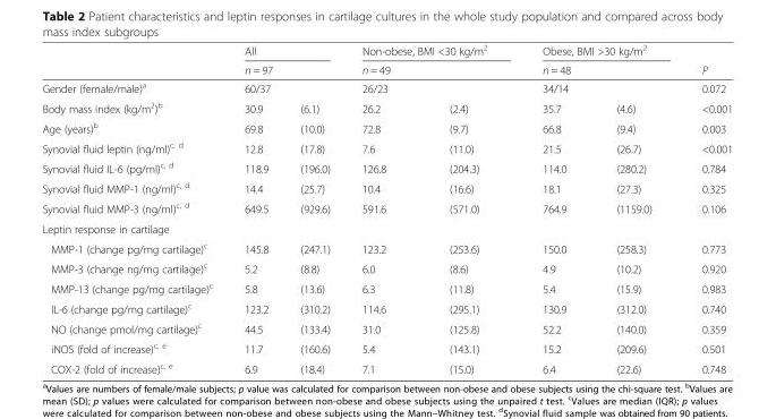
<table><thead><tr><td rowspan="4">Gender (female/male)<sup>a</sup> Body mass index (kg/m<sup>2</sup>)<sup>b</sup></td><td rowspan="3" colspan="2">All n = 97 60/37</td><td rowspan="3" colspan="2">Non-obese, BMI &lt;30 kg/m<sup>2</sup> n = 49 26/23</td><td rowspan="3" colspan="2">Obese, BMI &gt;30 kg/m<sup>2</sup> n = 48 34/14</td><td rowspan="4">P 0.072 &lt;0.001</td></tr><tr></tr><tr></tr><tr><td>30.9</td><td>(6.1)</td><td>26.2</td><td>(2.4)</td><td>35.7</td><td>(4.6)</td></tr></thead><tbody><tr><td>Age (years)<sup>b</sup></td><td>69.8</td><td>(10.0)</td><td>72.8</td><td>(9.7)</td><td>66.8</td><td>(9.4)</td><td>0.003</td></tr><tr><td>Synovial fluid leptin (ng/ml)<sup>c, d</sup></td><td>12.8</td><td>(17.8)</td><td>7.6</td><td>(11.0)</td><td>21.5</td><td>(26.7)</td><td>&lt;0.001</td></tr><tr><td>Synovial fluid IL-6 (pg/ml)<sup>c, d</sup></td><td>118.9</td><td>(196.0)</td><td>126.8</td><td>(204.3)</td><td>114.0</td><td>(280.2)</td><td>0.784</td></tr><tr><td>Synovial fluid MMP-1 (ng/ml)<sup>c, d</sup></td><td>14.4</td><td>(25.7)</td><td>10.4</td><td>(16.6)</td><td>18.1</td><td>(27.3)</td><td>0.325</td></tr><tr><td>Synovial fluid MMP-3 (ng/ml)<sup>c, d</sup></td><td>649.5</td><td>(929.6)</td><td>591.6</td><td>(571.0)</td><td>764.9</td><td>(1159.0)</td><td>0.106</td></tr><tr><td colspan="8">Leptin response in cartilage</td></tr><tr><td>MMP-1 (change pg/mg cartilage)<sup>c</sup></td><td>145.8</td><td>(247.1)</td><td>123.2</td><td>(253.6)</td><td>150.0</td><td>(258.3)</td><td>0.773</td></tr><tr><td>MMP-3 (change ng/mg cartilage)<sup>c</sup></td><td>5.2</td><td>(8.8)</td><td>6.0</td><td>(8.6)</td><td>4.9</td><td>(10.2)</td><td>0.920</td></tr><tr><td>MMP-13 (change pg/mg cartilage)<sup>c</sup></td><td>5.8</td><td>(13.6)</td><td>6.3</td><td>(11.8)</td><td>5.4</td><td>(15.9)</td><td>0.983</td></tr><tr><td>IL-6 (change pg/mg cartilage)<sup>c</sup></td><td>123.2</td><td>(310.2)</td><td>114.6</td><td>(295.1)</td><td>130.9</td><td>(312.0)</td><td>0.740</td></tr><tr><td>NO (change pmol/mg cartilage)<sup>c</sup></td><td>44.5</td><td>(133.4)</td><td>31.0</td><td>(125.8)</td><td>52.2</td><td>(140.0)</td><td>0.359</td></tr><tr><td>iNOS (fold of increase)<sup>c, e</sup></td><td>11.7</td><td>(160.6)</td><td>5.4</td><td>(143.1)</td><td>15.2</td><td>(209.6)</td><td>0.501</td></tr><tr><td>COX-2 (fold of increase)<sup>c, e</sup></td><td>6.9</td><td>(18.4)</td><td>7.1</td><td>(15.0)</td><td>6.4</td><td>(22.6)</td><td>0.748</td></tr></tbody></table>